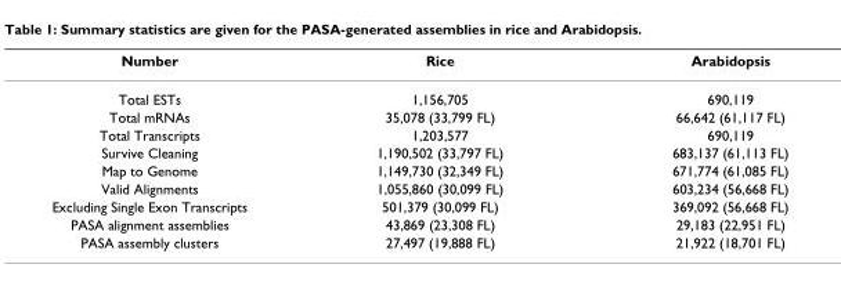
<table><thead><tr><td>Number</td><td>Rice</td><td>Arabidopsis</td></tr></thead><tbody><tr><td>Total ESTs</td><td>1,156,705</td><td>690,119</td></tr><tr><td>Total mRNAs</td><td>35,078 (33,799 FL)</td><td>66,642 (61,117 FL)</td></tr><tr><td>Total Transcripts</td><td>1,203,577</td><td>690,119</td></tr><tr><td>Survive Cleaning</td><td>1,190,502 (33,797 FL)</td><td>683,137 (61,113 FL)</td></tr><tr><td>Map to Genome</td><td>1,149,730 (32,349 FL)</td><td>671,774 (61,085 FL)</td></tr><tr><td>Valid Alignments</td><td>1,055,860 (30,099 FL)</td><td>603,234 (56,668 FL)</td></tr><tr><td>Excluding Single Exon Transcripts</td><td>501,379 (30,099 FL)</td><td>369,092 (56,668 FL)</td></tr><tr><td>PASA alignment assemblies</td><td>43,869 (23,308 FL)</td><td>29,183 (22,951 FL)</td></tr><tr><td>PASA assembly clusters</td><td>27,497 (19,888 FL)</td><td>21,922 (18,701 FL)</td></tr></tbody></table>